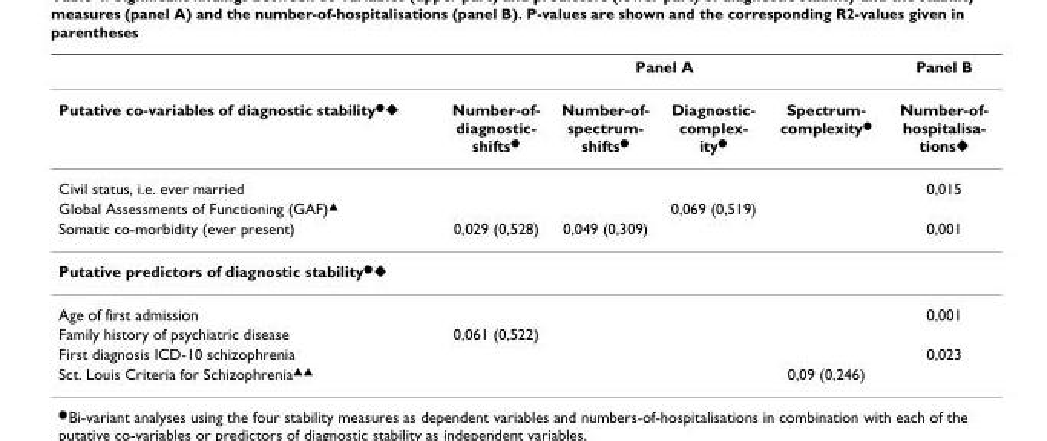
<table><thead><tr><td rowspan="2">Putative co-variables of diagnostic stability●◆</td><td colspan="4">Panel A</td><td rowspan="2">Panel B Number-of- hospitalisa- tions�</td></tr><tr><td>Number-of- diagnostic- shifts●</td><td>Number-of- spectrum- shifts●</td><td>Diagnostic- complex- ity●</td><td>Spectrum- complexity●</td></tr></thead><tbody><tr><td>Civil status, i.e. ever married</td><td></td><td></td><td></td><td></td><td>0,015</td></tr><tr><td>Global Assessments of Functioning (GAF)<sup>▲</sup></td><td></td><td></td><td>0,069 (0,519)</td><td></td><td></td></tr><tr><td>Somatic co-morbidity (ever present)</td><td>0,029 (0,528)</td><td>0,049 (0,309)</td><td></td><td></td><td>0,001</td></tr><tr><td colspan="6">Putative predictors of diagnostic stability<sup>●◆</sup></td></tr><tr><td>Age of first admission</td><td></td><td></td><td></td><td></td><td>0,001</td></tr><tr><td>Family history of psychiatric disease</td><td>0,061 (0,522)</td><td></td><td></td><td></td><td></td></tr><tr><td>First diagnosis ICD-10 schizophrenia</td><td></td><td></td><td></td><td></td><td>0,023</td></tr><tr><td>Sct. Louis Criteria for Schizophrenia<sup>▲▲</sup></td><td></td><td></td><td></td><td>0,09 (0,246)</td><td></td></tr></tbody></table>